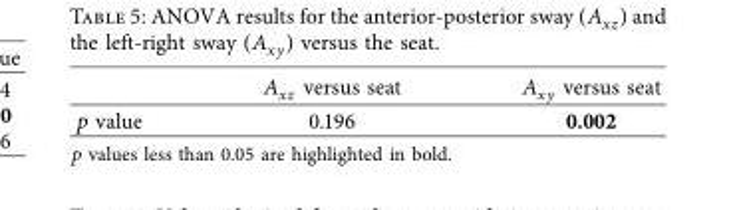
<table><thead><tr><td></td><td>A<sub>xz</sub> versus seat</td><td>A<sub>xy</sub> versus seat</td></tr></thead><tbody><tr><td>p value</td><td>0.196</td><td>0.002</td></tr></tbody></table>